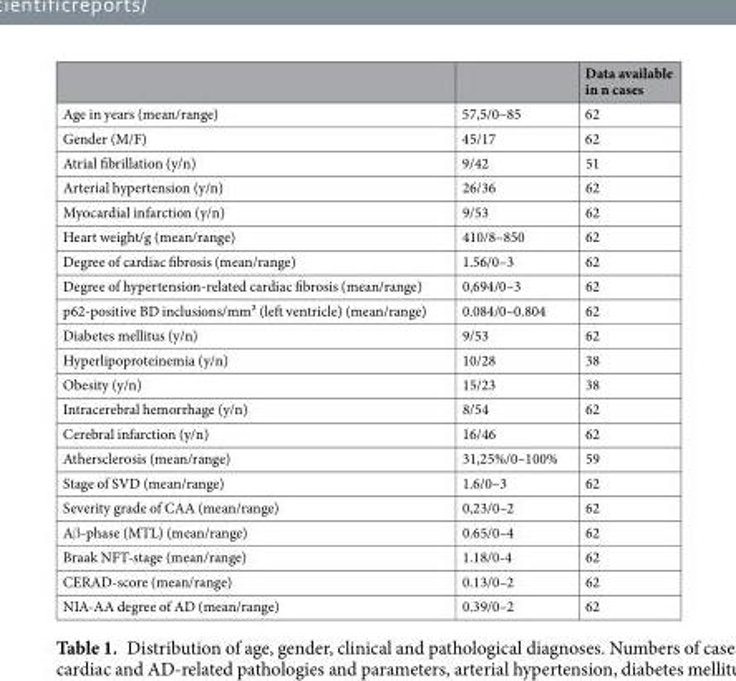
<table><thead><tr><td></td><td></td><td>Data available in n cases</td></tr></thead><tbody><tr><td>Age in years (mean/range)</td><td>57,5/0–85</td><td>62</td></tr><tr><td>Gender (M/F)</td><td>45/17</td><td>62</td></tr><tr><td>Atrial fibrillation (y/n)</td><td>9/42</td><td>51</td></tr><tr><td>Arterial hypertension (y/n)</td><td>26/36</td><td>62</td></tr><tr><td>Myocardial infarction (y/n)</td><td>9/53</td><td>62</td></tr><tr><td>Heart weight/g (mean/range)</td><td>410/8–850</td><td>62</td></tr><tr><td>Degree of cardiac fibrosis (mean/range)</td><td>1.56/0–3</td><td>62</td></tr><tr><td>Degree of hypertension-related cardiac fibrosis (mean/range)</td><td>0,694/0–3</td><td>62</td></tr><tr><td>p62-positive BD inclusions/mm² (left ventricle) (mean/range)</td><td>0.084/0–0.804</td><td>62</td></tr><tr><td>Diabetes mellitus (y/n)</td><td>9/53</td><td>62</td></tr><tr><td>Hyperlipoproteinemia (y/n)</td><td>10/28</td><td>38</td></tr><tr><td>Obesity (y/n)</td><td>15/23</td><td>38</td></tr><tr><td>Intracerebral hemorrhage (y/n)</td><td>8/54</td><td>62</td></tr><tr><td>Cerebral infarction (y/n)</td><td>16/46</td><td>62</td></tr><tr><td>Athersclerosis (mean/range)</td><td>31,25%/0–100%</td><td>59</td></tr><tr><td>Stage of SVD (mean/range)</td><td>1.6/0–3</td><td>62</td></tr><tr><td>Severity grade of CAA (mean/range)</td><td>0,23/0–2</td><td>62</td></tr><tr><td>Aβ-phase (MTL) (mean/range)</td><td>0.65/0–4</td><td>62</td></tr><tr><td>Braak NFT-stage (mean/range)</td><td>1.18/0-4</td><td>62</td></tr><tr><td>CERAD-score (mean/range)</td><td>0.13/0–2</td><td>62</td></tr><tr><td>NIA-AA degree of AD (mean/range)</td><td>0.39/0–2</td><td>62</td></tr></tbody></table>